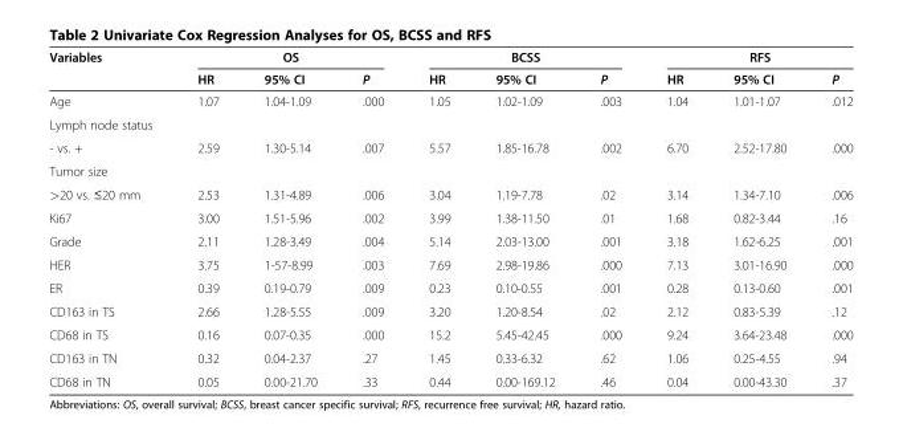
<table><thead><tr><td rowspan="2">Variables</td><td colspan="3">OS</td><td colspan="3">BCSS</td><td colspan="3">RFS</td></tr><tr><td>HR</td><td>95% CI</td><td>P</td><td>HR</td><td>95% CI</td><td>P</td><td>HR</td><td>95% CI</td><td>P</td></tr></thead><tbody><tr><td>Age</td><td>1.07</td><td>1.04-1.09</td><td>.000</td><td>1.05</td><td>1.02-1.09</td><td>.003</td><td>1.04</td><td>1.01-1.07</td><td>.012</td></tr><tr><td colspan="10">Lymph node status</td></tr><tr><td>- vs. +</td><td>2.59</td><td>1.30-5.14</td><td>.007</td><td>5.57</td><td>1.85-16.78</td><td>.002</td><td>6.70</td><td>2.52-17.80</td><td>.000</td></tr><tr><td colspan="10">Tumor size</td></tr><tr><td>&gt;20 vs. ≤20 mm</td><td>2.53</td><td>1.31-4.89</td><td>.006</td><td>3.04</td><td>1.19-7.78</td><td>.02</td><td>3.14</td><td>1.34-7.10</td><td>.006</td></tr><tr><td>Ki67</td><td>3.00</td><td>1.51-5.96</td><td>.002</td><td>3.99</td><td>1.38-11.50</td><td>.01</td><td>1.68</td><td>0.82-3.44</td><td>.16</td></tr><tr><td>Grade</td><td>2.11</td><td>1.28-3.49</td><td>.004</td><td>5.14</td><td>2.03-13.00</td><td>.001</td><td>3.18</td><td>1.62-6.25</td><td>.001</td></tr><tr><td>HER</td><td>3.75</td><td>1-57-8.99</td><td>.003</td><td>7.69</td><td>2.98-19.86</td><td>.000</td><td>7.13</td><td>3.01-16.90</td><td>.000</td></tr><tr><td>ER</td><td>0.39</td><td>0.19-0.79</td><td>.009</td><td>0.23</td><td>0.10-0.55</td><td>.001</td><td>0.28</td><td>0.13-0.60</td><td>.001</td></tr><tr><td>CD163 in TS</td><td>2.66</td><td>1.28-5.55</td><td>.009</td><td>3.20</td><td>1.20-8.54</td><td>.02</td><td>2.12</td><td>0.83-5.39</td><td>.12</td></tr><tr><td>CD68 in TS</td><td>0.16</td><td>0.07-0.35</td><td>.000</td><td>15.2</td><td>5.45-42.45</td><td>.000</td><td>9.24</td><td>3.64-23.48</td><td>.000</td></tr><tr><td>CD163 in TN</td><td>0.32</td><td>0.04-2.37</td><td>.27</td><td>1.45</td><td>0.33-6.32</td><td>.62</td><td>1.06</td><td>0.25-4.55</td><td>.94</td></tr><tr><td>CD68 in TN</td><td>0.05</td><td>0.00-21.70</td><td>.33</td><td>0.44</td><td>0.00-169.12</td><td>.46</td><td>0.04</td><td>0.00-43.30</td><td>.37</td></tr></tbody></table>